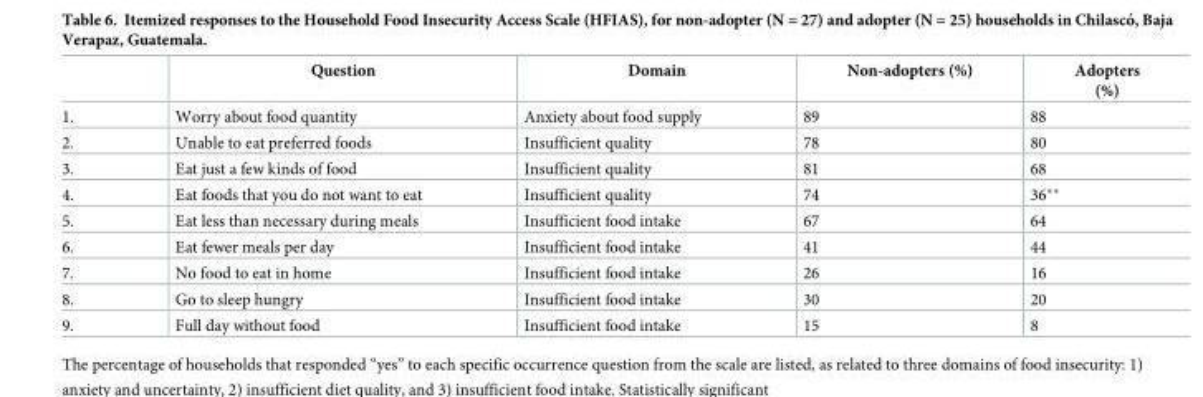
<table><thead><tr><td></td><td>Question</td><td>Domain</td><td>Non-adopters (%)</td><td>Adopters (%)</td></tr></thead><tbody><tr><td>1.</td><td>Worry about food quantity</td><td>Anxiety about food supply</td><td>89</td><td>88</td></tr><tr><td>2.</td><td>Unable to eat preferred foods</td><td>Insufficient quality</td><td>78</td><td>80</td></tr><tr><td>3.</td><td>Eat just a few kinds of food</td><td>Insufficient quality</td><td>81</td><td>68</td></tr><tr><td>4.</td><td>Eat foods that you do not want to eat</td><td>Insufficient quality</td><td>74</td><td>36**</td></tr><tr><td>5.</td><td>Eat less than necessary during meals</td><td>Insufficient food intake</td><td>67</td><td>64</td></tr><tr><td>6.</td><td>Eat fewer meals per day</td><td>Insufficient food intake</td><td>41</td><td>44</td></tr><tr><td>7.</td><td>No food to eat in home</td><td>Insufficient food intake</td><td>26</td><td>16</td></tr><tr><td>8.</td><td>Go to sleep hungry</td><td>Insufficient food intake</td><td>30</td><td>20</td></tr><tr><td>9.</td><td>Full day without food</td><td>Insufficient food intake</td><td>15</td><td>8</td></tr></tbody></table>